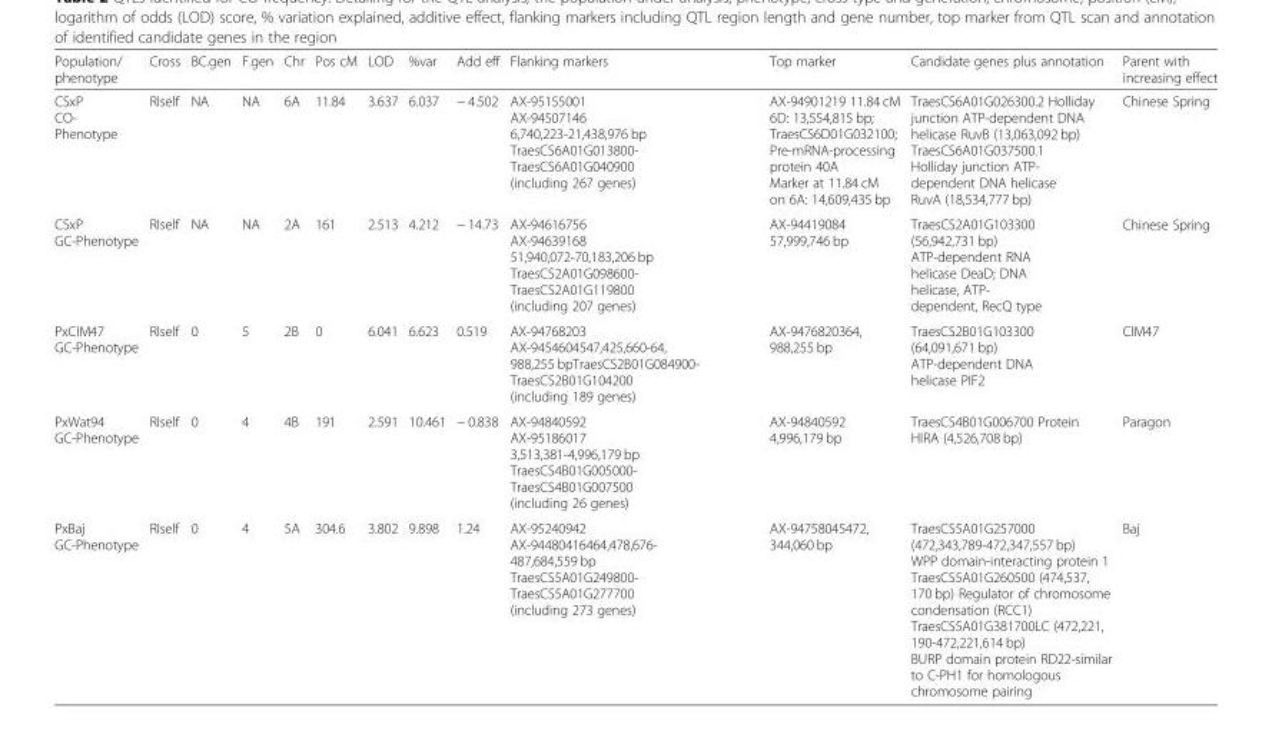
<table><thead><tr><td>Population/ phenotype</td><td>Cross</td><td>BC.gen</td><td>F.gen</td><td>Chr</td><td>Pos cM</td><td>LOD</td><td>%var</td><td>Add eff</td><td>Flanking markers</td><td>Top marker</td><td>Candidate genes plus annotation</td><td>Parent with increasing effect</td></tr></thead><tbody><tr><td>CSxP CO- Phenotype</td><td>RIself</td><td>NA</td><td>NA</td><td>6A</td><td>11.84</td><td>3.637</td><td>6.037</td><td>− 4.502</td><td>AX-95155001 AX-94507146 6,740,223-21,438,976 bp TraesCS6A01G013800- TraesCS6A01G040900 (including 267 genes)</td><td>AX-94901219 11.84 cM 6D: 13,554,815 bp; TraesCS6D01G032100; Pre-mRNA-processing protein 40A Marker at 11.84 cM on 6A: 14,609,435 bp</td><td>TraesCS6A01G026300.2 Holliday junction ATP-dependent DNA helicase RuvB (13,063,092 bp) TraesCS6A01G037500.1 Holliday junction ATP- dependent DNA helicase RuvA (18,534,777 bp)</td><td>Chinese Spring</td></tr><tr><td>CSxP GC-Phenotype</td><td>RIself</td><td>NA</td><td>NA</td><td>2A</td><td>161</td><td>2.513</td><td>4.212</td><td>− 14.73</td><td>AX-94616756 AX-94639168 51,940,072-70,183,206 bp TraesCS2A01G098600- TraesCS2A01G119800 (including 207 genes)</td><td>AX-94419084 57,999,746 bp</td><td>TraesCS2A01G103300 (56,942,731 bp) ATP-dependent RNA helicase DeaD; DNA helicase, ATP- dependent, RecQ type</td><td>Chinese Spring</td></tr><tr><td>PxCIM47 GC-Phenotype</td><td>RIself</td><td>0</td><td>5</td><td>2B</td><td>0</td><td>6.041</td><td>6.623</td><td>0.519</td><td>AX-94768203 AX-9454604547,425,660-64, 988,255 bpTraesCS2B01G084900- TraesCS2B01G104200 (including 189 genes)</td><td>AX-9476820364, 988,255 bp</td><td>TraesCS2B01G103300 (64,091,671 bp) ATP-dependent DNA helicase PIF2</td><td>CIM47</td></tr><tr><td>PxWat94 GC-Phenotype</td><td>RIself</td><td>0</td><td>4</td><td>4B</td><td>191</td><td>2.591</td><td>10.461</td><td>− 0.838</td><td>AX-94840592 AX-95186017 3,513,381-4,996,179 bp TraesCS4B01G005000- TraesCS4B01G007500 (including 26 genes)</td><td>AX-94840592 4,996,179 bp</td><td>TraesCS4B01G006700 Protein HIRA (4,526,708 bp)</td><td>Paragon</td></tr><tr><td>PxBaj GC-Phenotype</td><td>RIself</td><td>0</td><td>4</td><td>5A</td><td>304.6</td><td>3.802</td><td>9.898</td><td>1.24</td><td>AX-95240942 AX-94480416464,478,676- 487,684,559 bp TraesCS5A01G249800- TraesCS5A01G277700 (including 273 genes)</td><td>AX-94758045472, 344,060 bp</td><td>TraesCS5A01G257000 (472,343,789-472,347,557 bp) WPP domain-interacting protein 1 TraesCS5A01G260500 (474,537, 170 bp) Regulator of chromosome condensation (RCC1) TraesCS5A01G381700LC (472,221, 190-472,221,614 bp) BURP domain protein RD22-similar to C-PH1 for homologous chromosome pairing</td><td>Baj</td></tr></tbody></table>